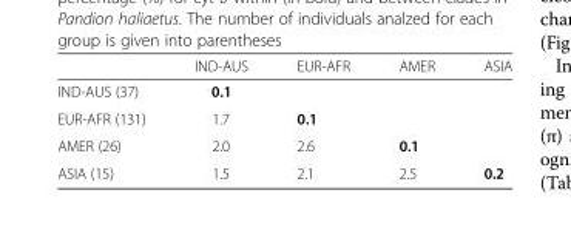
<table><thead><tr><td></td><td>IND-AUS</td><td>EUR-AFR</td><td>AMER</td><td>ASIA</td></tr></thead><tbody><tr><td>IND-AUS (37)</td><td>0.1</td><td></td><td></td><td></td></tr><tr><td>EUR-AFR (131)</td><td>1.7</td><td>0.1</td><td></td><td></td></tr><tr><td>AMER (26)</td><td>2.0</td><td>2.6</td><td>0.1</td><td></td></tr><tr><td>ASIA (15)</td><td>1.5</td><td>2.1</td><td>2.5</td><td>0.2</td></tr></tbody></table>